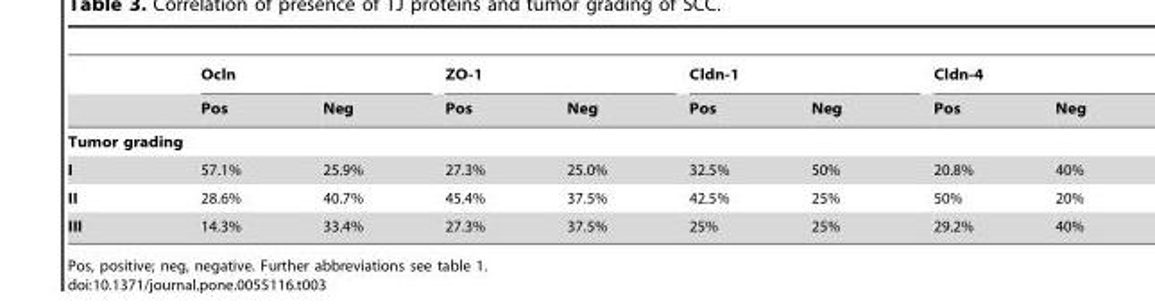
<table><thead><tr><td rowspan="2"></td><td colspan="2">Ocln</td><td colspan="2">ZO-1</td><td colspan="2">Cldn-1</td><td colspan="2">Cldn-4</td></tr><tr><td>Pos</td><td>Neg</td><td>Pos</td><td>Neg</td><td>Pos</td><td>Neg</td><td>Pos</td><td>Neg</td></tr></thead><tbody><tr><td colspan="9">Tumor grading</td></tr><tr><td>I</td><td>57.1%</td><td>25.9%</td><td>27.3%</td><td>25.0%</td><td>32.5%</td><td>50%</td><td>20.8%</td><td>40%</td></tr><tr><td>II</td><td>28.6%</td><td>40.7%</td><td>45.4%</td><td>37.5%</td><td>42.5%</td><td>25%</td><td>50%</td><td>20%</td></tr><tr><td>III</td><td>14.3%</td><td>33.4%</td><td>27.3%</td><td>37.5%</td><td>25%</td><td>25%</td><td>29.2%</td><td>40%</td></tr></tbody></table>